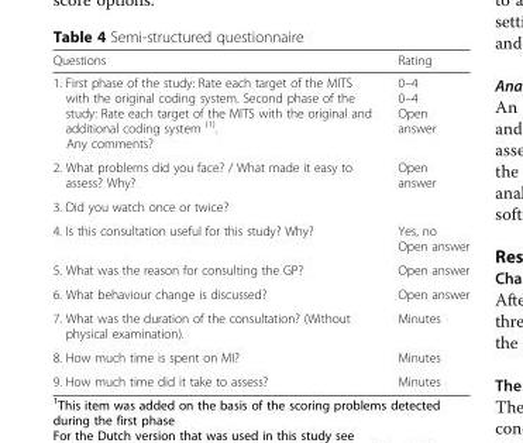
<table><thead><tr><td>Questions</td><td>Rating</td></tr></thead><tbody><tr><td>1. First phase of the study: Rate each target of the MITS with the original coding system. Second phase of the study: Rate each target of the MITS with the original and additional coding system <sup>(1)</sup>. Any comments?</td><td>0–4 0–4 Open answer</td></tr><tr><td>2. What problems did you face? / What made it easy to assess? Why?</td><td>Open answer</td></tr><tr><td colspan="2">3. Did you watch once or twice?</td></tr><tr><td>4. Is this consultation useful for this study? Why?</td><td>Yes, no Open answer</td></tr><tr><td>5. What was the reason for consulting the GP?</td><td>Open answer</td></tr><tr><td>6. What behaviour change is discussed?</td><td>Open answer</td></tr><tr><td>7. What was the duration of the consultation? (Without physical examination).</td><td>Minutes</td></tr><tr><td>8. How much time is spent on MI?</td><td>Minutes</td></tr><tr><td>9. How much time did it take to assess?</td><td>Minutes</td></tr></tbody></table>